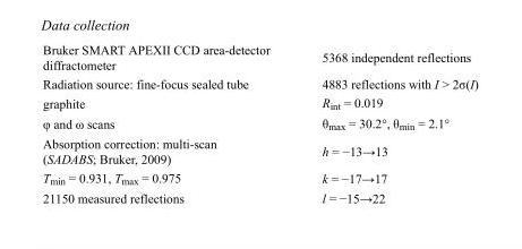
<table><tbody><tr><td>Bruker SMART APEXII CCD area-detector diffractometer</td><td>5368 independent reflections</td></tr><tr><td>Radiation source: fine-focus sealed tube</td><td>4883 reflections with I &gt; 2σ(I)</td></tr><tr><td>graphite</td><td>R<sub>int</sub> = 0.019</td></tr><tr><td>φ and ω scans</td><td>θ<sub>max</sub> = 30.2°, θ<sub>min</sub> = 2.1°</td></tr><tr><td>Absorption correction: multi-scan (SADABS; Bruker, 2009)</td><td>h = −13→13</td></tr><tr><td>T<sub>min</sub> = 0.931, T<sub>max</sub> = 0.975</td><td>k = −17→17</td></tr><tr><td>21150 measured reflections</td><td>l = −15→22</td></tr></tbody></table>